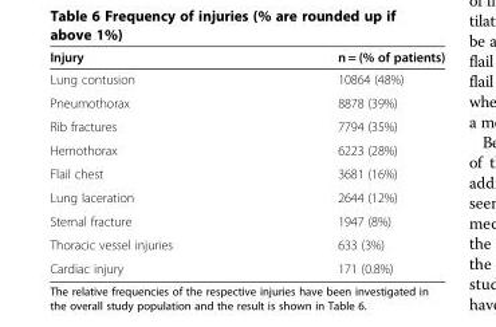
<table><thead><tr><td>Injury</td><td>n = (% of patients)</td></tr></thead><tbody><tr><td>Lung contusion</td><td>10864 (48%)</td></tr><tr><td>Pneumothorax</td><td>8878 (39%)</td></tr><tr><td>Rib fractures</td><td>7794 (35%)</td></tr><tr><td>Hemothorax</td><td>6223 (28%)</td></tr><tr><td>Flail chest</td><td>3681 (16%)</td></tr><tr><td>Lung laceration</td><td>2644 (12%)</td></tr><tr><td>Sternal fracture</td><td>1947 (8%)</td></tr><tr><td>Thoracic vessel injuries</td><td>633 (3%)</td></tr><tr><td>Cardiac injury</td><td>171 (0.8%)</td></tr></tbody></table>